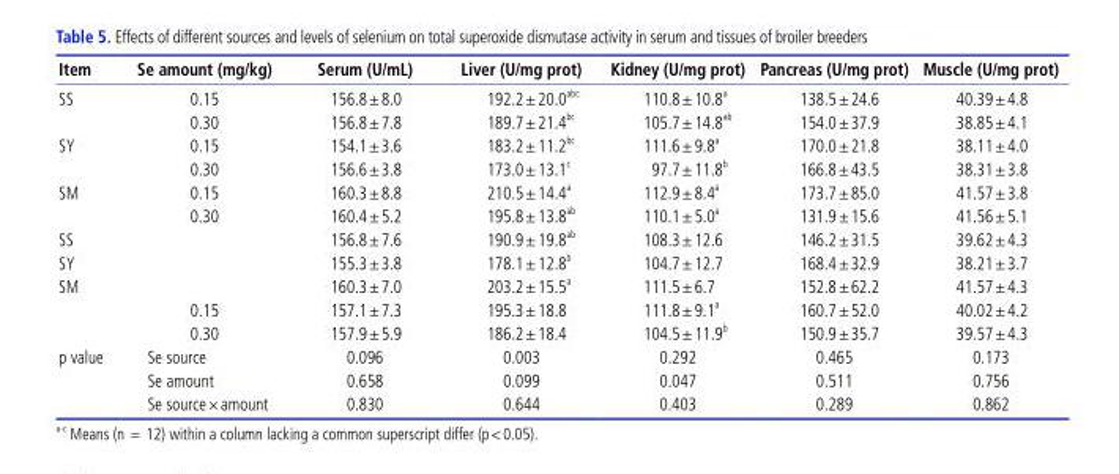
<table><thead><tr><td>Item</td><td>Se amount (mg/kg)</td><td>Serum (U/mL)</td><td>Liver (U/mg prot)</td><td>Kidney (U/mg prot)</td><td>Pancreas (U/mg prot)</td><td>Muscle (U/mg prot)</td></tr></thead><tbody><tr><td rowspan="2">SS</td><td>0.15</td><td>156.8±8.0</td><td>192.2±20.0 abc</td><td>110.8±10.8 <sup>a</sup></td><td>138.5±24.6</td><td>40.39±4.8</td></tr><tr><td>0.30</td><td>156.8±7.8</td><td>189.7±21.4 <sup>bc</sup></td><td>105.7±14.8 <sup>ab</sup></td><td>154.0±37.9</td><td>38.85±4.1</td></tr><tr><td rowspan="2">SY</td><td>0.15</td><td>154.1±3.6</td><td>183.2±11.2 <sup>bc</sup></td><td>111.6±9.8 <sup>a</sup></td><td>170.0±21.8</td><td>38.11±4.0</td></tr><tr><td>0.30</td><td>156.6±3.8</td><td>173.0±13.1 <sup>c</sup></td><td>97.7±11.8 <sup>b</sup></td><td>166.8±43.5</td><td>38.31±3.8</td></tr><tr><td rowspan="2">SM</td><td>0.15</td><td>160.3±8.8</td><td>210.5±14.4 <sup>a</sup></td><td>112.9±8.4 <sup>a</sup></td><td>173.7±85.0</td><td>41.57±3.8</td></tr><tr><td>0.30</td><td>160.4±5.2</td><td>195.8±13.8 <sup>ab</sup></td><td>110.1±5.0 <sup>a</sup></td><td>131.9±15.6</td><td>41.56±5.1</td></tr><tr><td>SS</td><td></td><td>156.8±7.6</td><td>190.9±19.8 <sup>ab</sup></td><td>108.3±12.6</td><td>146.2±31.5</td><td>39.62±4.3</td></tr><tr><td>SY</td><td></td><td>155.3±3.8</td><td>178.1±12.8 <sup>b</sup></td><td>104.7±12.7</td><td>168.4±32.9</td><td>38.21±3.7</td></tr><tr><td rowspan="3">SM</td><td></td><td>160.3±7.0</td><td>203.2±15.5 <sup>a</sup></td><td>111.5±6.7</td><td>152.8±62.2</td><td>41.57±4.3</td></tr><tr><td>0.15</td><td>157.1±7.3</td><td>195.3±18.8</td><td>111.8±9.1 <sup>a</sup></td><td>160.7±52.0</td><td>40.02±4.2</td></tr><tr><td>0.30</td><td>157.9±5.9</td><td>186.2±18.4</td><td>104.5±11.9 <sup>b</sup></td><td>150.9±35.7</td><td>39.57±4.3</td></tr><tr><td rowspan="3">p value</td><td>Se source</td><td>0.096</td><td>0.003</td><td>0.292</td><td>0.465</td><td>0.173</td></tr><tr><td>Se amount</td><td>0.658</td><td>0.099</td><td>0.047</td><td>0.511</td><td>0.756</td></tr><tr><td>Se source×amount</td><td>0.830</td><td>0.644</td><td>0.403</td><td>0.289</td><td>0.862</td></tr></tbody></table>